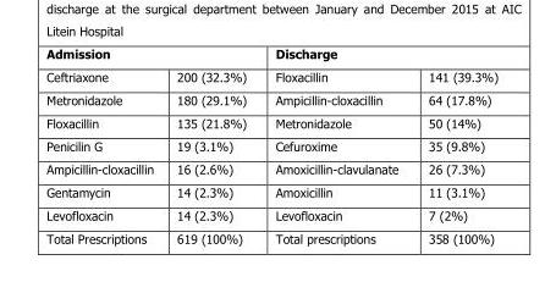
<table><thead><tr><td colspan="2">Admission</td><td colspan="2">Discharge</td></tr><tr><td>Ceftriaxone</td><td>200 (32.3%)</td><td>Floxacillin</td><td>141 (39.3%)</td></tr></thead><tbody><tr><td>Metronidazole</td><td>180 (29.1%)</td><td>Ampicillin-cloxacillin</td><td>64 (17.8%)</td></tr><tr><td>Floxacillin</td><td>135 (21.8%)</td><td>Metronidazole</td><td>50 (14%)</td></tr><tr><td>Penicilin G</td><td>19 (3.1%)</td><td>Cefuroxime</td><td>35 (9.8%)</td></tr><tr><td>Ampicillin-cloxacillin</td><td>16 (2.6%)</td><td>Amoxicillin-clavulanate</td><td>26 (7.3%)</td></tr><tr><td>Gentamycin</td><td>14 (2.3%)</td><td>Amoxicillin</td><td>11 (3.1%)</td></tr><tr><td>Levofloxacin</td><td>14 (2.3%)</td><td>Levofloxacin</td><td>7 (2%)</td></tr><tr><td>Total Prescriptions</td><td>619 (100%)</td><td>Total prescriptions</td><td>358 (100%)</td></tr></tbody></table>